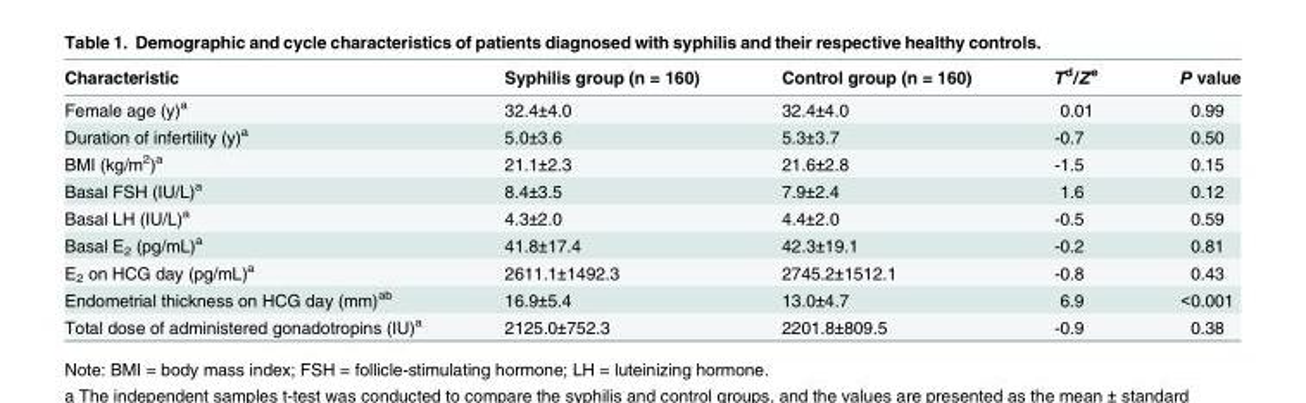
<table><thead><tr><td>Characteristic</td><td>Syphilis group (n = 160)</td><td>Control group (n = 160)</td><td>T<sup>d</sup>/Z<sup>e</sup></td><td>P value</td></tr></thead><tbody><tr><td>Female age (y)<sup>a</sup></td><td>32.4±4.0</td><td>32.4±4.0</td><td>0.01</td><td>0.99</td></tr><tr><td>Duration of infertility (y)<sup>a</sup></td><td>5.0±3.6</td><td>5.3±3.7</td><td>-0.7</td><td>0.50</td></tr><tr><td>BMI (kg/m<sup>2</sup>)<sup>a</sup></td><td>21.1±2.3</td><td>21.6±2.8</td><td>-1.5</td><td>0.15</td></tr><tr><td>Basal FSH (IU/L)<sup>a</sup></td><td>8.4±3.5</td><td>7.9±2.4</td><td>1.6</td><td>0.12</td></tr><tr><td>Basal LH (IU/L)<sup>a</sup></td><td>4.3±2.0</td><td>4.4±2.0</td><td>-0.5</td><td>0.59</td></tr><tr><td>Basal E<sub>2</sub> (pg/mL)<sup>a</sup></td><td>41.8±17.4</td><td>42.3±19.1</td><td>-0.2</td><td>0.81</td></tr><tr><td>E<sub>2</sub> on HCG day (pg/mL)<sup>a</sup></td><td>2611.1±1492.3</td><td>2745.2±1512.1</td><td>-0.8</td><td>0.43</td></tr><tr><td>Endometrial thickness on HCG day (mm)<sup>ab</sup></td><td>16.9±5.4</td><td>13.0±4.7</td><td>6.9</td><td>&lt;0.001</td></tr><tr><td>Total dose of administered gonadotropins (IU)<sup>a</sup></td><td>2125.0±752.3</td><td>2201.8±809.5</td><td>-0.9</td><td>0.38</td></tr></tbody></table>